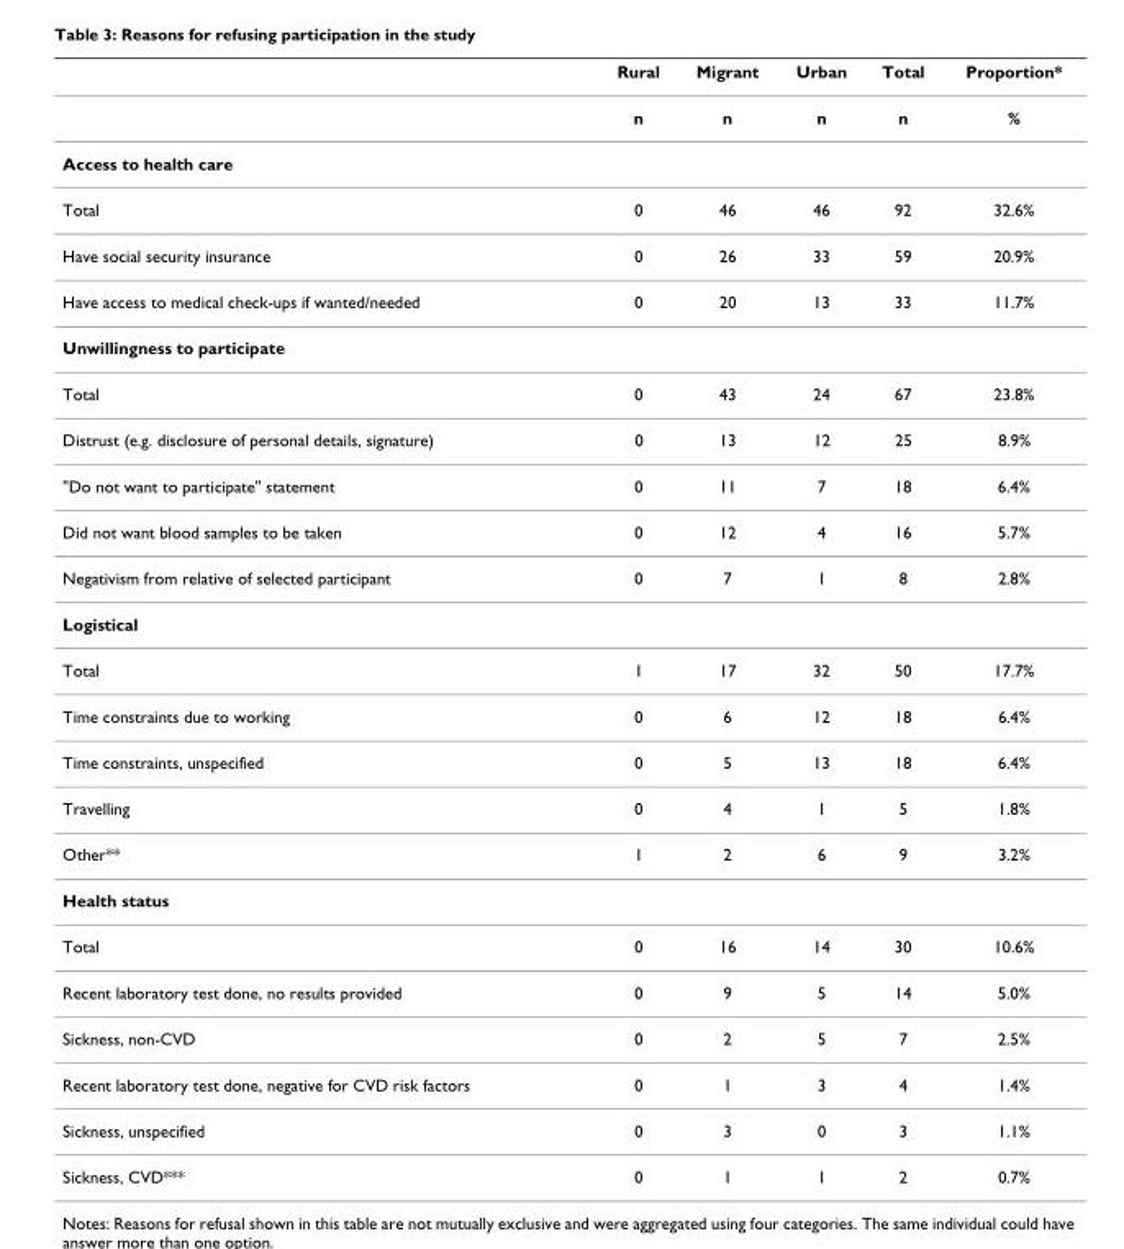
<table><thead><tr><td></td><td>Rural</td><td>Migrant</td><td>Urban</td><td>Total</td><td>Proportion*</td></tr></thead><tbody><tr><td></td><td>n</td><td>n</td><td>n</td><td>n</td><td>%</td></tr><tr><td colspan="6">Access to health care</td></tr><tr><td>Total</td><td>0</td><td>46</td><td>46</td><td>92</td><td>32.6%</td></tr><tr><td>Have social security insurance</td><td>0</td><td>26</td><td>33</td><td>59</td><td>20.9%</td></tr><tr><td>Have access to medical check-ups if wanted/needed</td><td>0</td><td>20</td><td>13</td><td>33</td><td>11.7%</td></tr><tr><td colspan="6">Unwillingness to participate</td></tr><tr><td>Total</td><td>0</td><td>43</td><td>24</td><td>67</td><td>23.8%</td></tr><tr><td>Distrust (e.g. disclosure of personal details, signature)</td><td>0</td><td>13</td><td>12</td><td>25</td><td>8.9%</td></tr><tr><td>&quot;Do not want to participate&quot; statement</td><td>0</td><td>11</td><td>7</td><td>18</td><td>6.4%</td></tr><tr><td>Did not want blood samples to be taken</td><td>0</td><td>12</td><td>4</td><td>16</td><td>5.7%</td></tr><tr><td>Negativism from relative of selected participant</td><td>0</td><td>7</td><td>1</td><td>8</td><td>2.8%</td></tr><tr><td colspan="6">Logistical</td></tr><tr><td>Total</td><td>1</td><td>17</td><td>32</td><td>50</td><td>17.7%</td></tr><tr><td>Time constraints due to working</td><td>0</td><td>6</td><td>12</td><td>18</td><td>6.4%</td></tr><tr><td>Time constraints, unspecified</td><td>0</td><td>5</td><td>13</td><td>18</td><td>6.4%</td></tr><tr><td>Travelling</td><td>0</td><td>4</td><td>1</td><td>5</td><td>1.8%</td></tr><tr><td>Other**</td><td>1</td><td>2</td><td>6</td><td>9</td><td>3.2%</td></tr><tr><td colspan="6">Health status</td></tr><tr><td>Total</td><td>0</td><td>16</td><td>14</td><td>30</td><td>10.6%</td></tr><tr><td>Recent laboratory test done, no results provided</td><td>0</td><td>9</td><td>5</td><td>14</td><td>5.0%</td></tr><tr><td>Sickness, non-CVD</td><td>0</td><td>2</td><td>5</td><td>7</td><td>2.5%</td></tr><tr><td>Recent laboratory test done, negative for CVD risk factors</td><td>0</td><td>1</td><td>3</td><td>4</td><td>1.4%</td></tr><tr><td>Sickness, unspecified</td><td>0</td><td>3</td><td>0</td><td>3</td><td>1.1%</td></tr><tr><td>Sickness, CVD***</td><td>0</td><td>1</td><td>1</td><td>2</td><td>0.7%</td></tr></tbody></table>